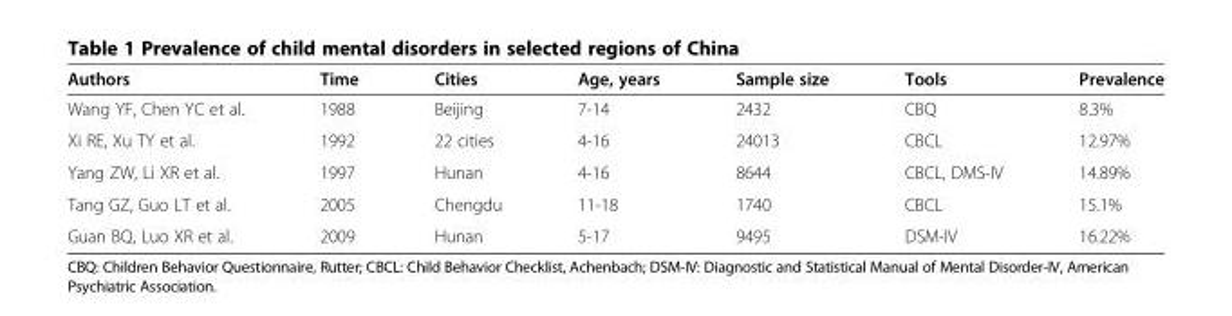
<table><thead><tr><td>Authors</td><td>Time</td><td>Cities</td><td>Age, years</td><td>Sample size</td><td>Tools</td><td>Prevalence</td></tr></thead><tbody><tr><td>Wang YF, Chen YC et al.</td><td>1988</td><td>Beijing</td><td>7-14</td><td>2432</td><td>CBQ</td><td>8.3%</td></tr><tr><td>Xi RE, Xu TY et al.</td><td>1992</td><td>22 cities</td><td>4-16</td><td>24013</td><td>CBCL</td><td>12.97%</td></tr><tr><td>Yang ZW, Li XR et al.</td><td>1997</td><td>Hunan</td><td>4-16</td><td>8644</td><td>CBCL, DMS-IV</td><td>14.89%</td></tr><tr><td>Tang GZ, Guo LT et al.</td><td>2005</td><td>Chengdu</td><td>11-18</td><td>1740</td><td>CBCL</td><td>15.1%</td></tr><tr><td>Guan BQ, Luo XR et al.</td><td>2009</td><td>Hunan</td><td>5-17</td><td>9495</td><td>DSM-IV</td><td>16.22%</td></tr></tbody></table>